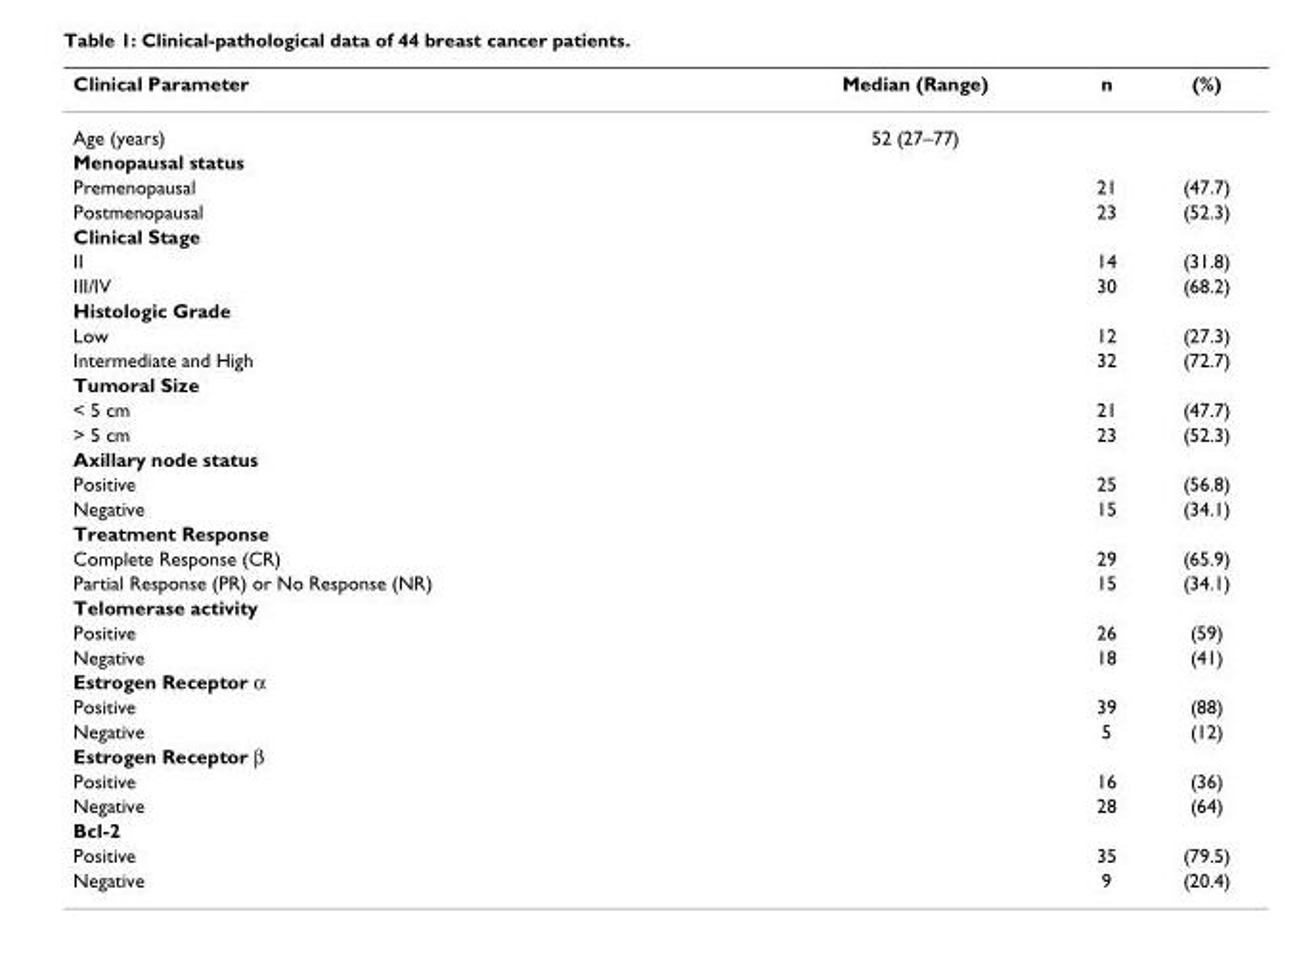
<table><thead><tr><td>Clinical Parameter</td><td>Median (Range)</td><td>n</td><td>(%)</td></tr></thead><tbody><tr><td>Age (years)</td><td>52 (27–77)</td><td></td><td></td></tr><tr><td colspan="4">Menopausal status</td></tr><tr><td>Premenopausal</td><td></td><td>21</td><td>(47.7)</td></tr><tr><td>Postmenopausal</td><td></td><td>23</td><td>(52.3)</td></tr><tr><td colspan="4">Clinical Stage</td></tr><tr><td>II</td><td></td><td>14</td><td>(31.8)</td></tr><tr><td>III/IV</td><td></td><td>30</td><td>(68.2)</td></tr><tr><td colspan="4">Histologic Grade</td></tr><tr><td>Low</td><td></td><td>12</td><td>(27.3)</td></tr><tr><td>Intermediate and High</td><td></td><td>32</td><td>(72.7)</td></tr><tr><td colspan="4">Tumoral Size</td></tr><tr><td>&lt; 5 cm</td><td></td><td>21</td><td>(47.7)</td></tr><tr><td>&gt; 5 cm</td><td></td><td>23</td><td>(52.3)</td></tr><tr><td colspan="4">Axillary node status</td></tr><tr><td>Positive</td><td></td><td>25</td><td>(56.8)</td></tr><tr><td>Negative</td><td></td><td>15</td><td>(34.1)</td></tr><tr><td colspan="4">Treatment Response</td></tr><tr><td>Complete Response (CR)</td><td></td><td>29</td><td>(65.9)</td></tr><tr><td>Partial Response (PR) or No Response (NR)</td><td></td><td>15</td><td>(34.1)</td></tr><tr><td colspan="4">Telomerase activity</td></tr><tr><td>Positive</td><td></td><td>26</td><td>(59)</td></tr><tr><td>Negative</td><td></td><td>18</td><td>(41)</td></tr><tr><td colspan="4">Estrogen Receptor α</td></tr><tr><td>Positive</td><td></td><td>39</td><td>(88)</td></tr><tr><td>Negative</td><td></td><td>5</td><td>(12)</td></tr><tr><td colspan="4">Estrogen Receptor β</td></tr><tr><td>Positive</td><td></td><td>16</td><td>(36)</td></tr><tr><td>Negative</td><td></td><td>28</td><td>(64)</td></tr><tr><td colspan="4">Bcl-2</td></tr><tr><td>Positive</td><td></td><td>35</td><td>(79.5)</td></tr><tr><td>Negative</td><td></td><td>9</td><td>(20.4)</td></tr></tbody></table>